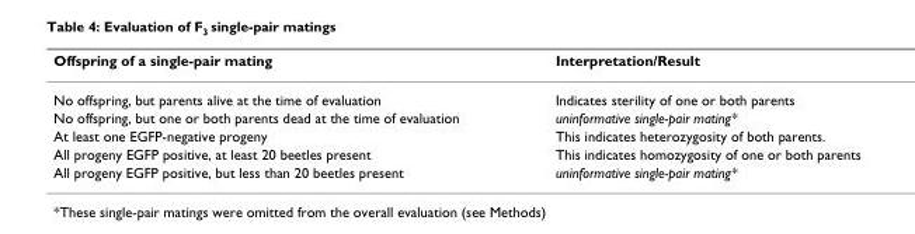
<table><thead><tr><td>Offspring of a single-pair mating</td><td>Interpretation/Result</td></tr></thead><tbody><tr><td>No offspring, but parents alive at the time of evaluation</td><td>Indicates sterility of one or both parents</td></tr><tr><td>No offspring, but one or both parents dead at the time of evaluation</td><td>uninformative single-pair mating*</td></tr><tr><td>At least one EGFP-negative progeny</td><td>This indicates heterozygosity of both parents.</td></tr><tr><td>All progeny EGFP positive, at least 20 beetles present</td><td>This indicates homozygosity of one or both parents</td></tr><tr><td>All progeny EGFP positive, but less than 20 beetles present</td><td>uninformative single-pair mating*</td></tr></tbody></table>